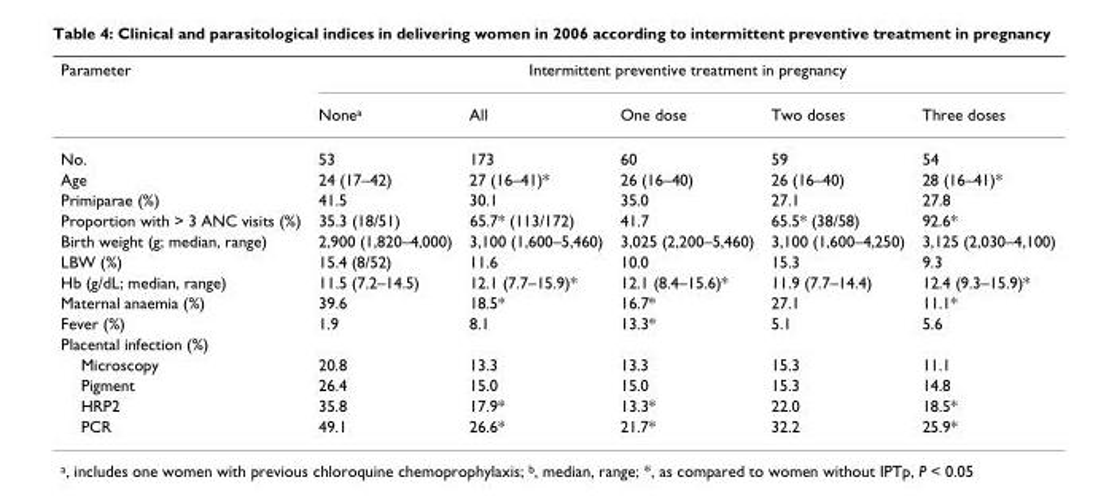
<table><thead><tr><td rowspan="2">Parameter</td><td colspan="5">Intermittent preventive treatment in pregnancy</td></tr><tr><td>None<sup>a</sup></td><td>All</td><td>One dose</td><td>Two doses</td><td>Three doses</td></tr></thead><tbody><tr><td>No.</td><td>53</td><td>173</td><td>60</td><td>59</td><td>54</td></tr><tr><td>Age</td><td>24 (17–42)</td><td>27 (16–41)*</td><td>26 (16–40)</td><td>26 (16–40)</td><td>28 (16–41)*</td></tr><tr><td>Primiparae (%)</td><td>41.5</td><td>30.1</td><td>35.0</td><td>27.1</td><td>27.8</td></tr><tr><td>Proportion with &gt; 3 ANC visits (%)</td><td>35.3 (18/51)</td><td>65.7* (113/172)</td><td>41.7</td><td>65.5* (38/58)</td><td>92.6*</td></tr><tr><td>Birth weight (g; median, range)</td><td>2,900 (1,820–4,000)</td><td>3,100 (1,600–5,460)</td><td>3,025 (2,200–5,460)</td><td>3,100 (1,600–4,250)</td><td>3,125 (2,030–4,100)</td></tr><tr><td>LBW (%)</td><td>15.4 (8/52)</td><td>11.6</td><td>10.0</td><td>15.3</td><td>9.3</td></tr><tr><td>Hb (g/dL; median, range)</td><td>11.5 (7.2–14.5)</td><td>12.1 (7.7–15.9)*</td><td>12.1 (8.4–15.6)*</td><td>11.9 (7.7–14.4)</td><td>12.4 (9.3–15.9)*</td></tr><tr><td>Maternal anaemia (%)</td><td>39.6</td><td>18.5*</td><td>16.7*</td><td>27.1</td><td>11.1*</td></tr><tr><td>Fever (%)</td><td>1.9</td><td>8.1</td><td>13.3*</td><td>5.1</td><td>5.6</td></tr><tr><td colspan="6">Placental infection (%)</td></tr><tr><td>Microscopy</td><td>20.8</td><td>13.3</td><td>13.3</td><td>15.3</td><td>11.1</td></tr><tr><td>Pigment</td><td>26.4</td><td>15.0</td><td>15.0</td><td>15.3</td><td>14.8</td></tr><tr><td>HRP2</td><td>35.8</td><td>17.9*</td><td>13.3*</td><td>22.0</td><td>18.5*</td></tr><tr><td>PCR</td><td>49.1</td><td>26.6*</td><td>21.7*</td><td>32.2</td><td>25.9*</td></tr></tbody></table>